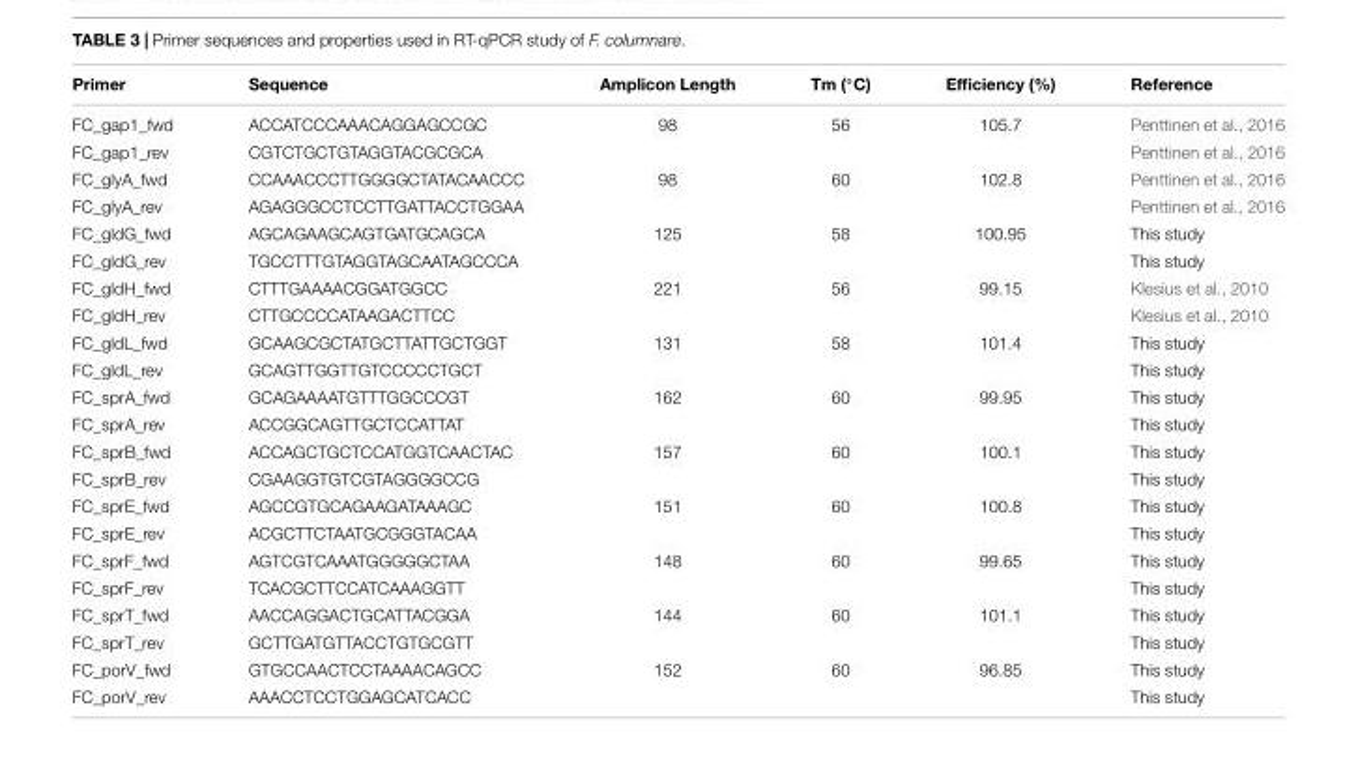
<table><thead><tr><td>Primer</td><td>Sequence</td><td>Amplicon Length</td><td>Tm (◦C)</td><td>Efficiency (%)</td><td>Reference</td></tr></thead><tbody><tr><td>FC_gap1_fwd</td><td>ACCATCCCAAACAGGAGCCGC</td><td>98</td><td>56</td><td>105.7</td><td>Penttinen et al., 2016</td></tr><tr><td>FC_gap1_rev</td><td>CGTCTGCTGTAGGTACGCGCA</td><td></td><td></td><td></td><td>Penttinen et al., 2016</td></tr><tr><td>FC_glyA_fwd</td><td>CCAAACCCTTGGGGCTATACAACCC</td><td>98</td><td>60</td><td>102.8</td><td>Penttinen et al., 2016</td></tr><tr><td>FC_glyA_rev</td><td>AGAGGGCCTCCTTGATTACCTGGAA</td><td></td><td></td><td></td><td>Penttinen et al., 2016</td></tr><tr><td>FC_gldG_fwd</td><td>AGCAGAAGCAGTGATGCAGCA</td><td>125</td><td>58</td><td>100.95</td><td>This study</td></tr><tr><td>FC_gldG_rev</td><td>TGCCTTTGTAGGTAGCAATAGCCCA</td><td></td><td></td><td></td><td>This study</td></tr><tr><td>FC_gldH_fwd</td><td>CTTTGAAAACGGATGGCC</td><td>221</td><td>56</td><td>99.15</td><td>Klesius et al., 2010</td></tr><tr><td>FC_gldH_rev</td><td>CTTGCCCCATAAGACTTCC</td><td></td><td></td><td></td><td>Klesius et al., 2010</td></tr><tr><td>FC_gldL_fwd</td><td>GCAAGCGCTATGCTTATTGCTGGT</td><td>131</td><td>58</td><td>101.4</td><td>This study</td></tr><tr><td>FC_gldL_rev</td><td>GCAGTTGGTTGTCCCCCTGCT</td><td></td><td></td><td></td><td>This study</td></tr><tr><td>FC_sprA_fwd</td><td>GCAGAAAATGTTTGGCCCGT</td><td>162</td><td>60</td><td>99.95</td><td>This study</td></tr><tr><td>FC_sprA_rev</td><td>ACCGGCAGTTGCTCCATTAT</td><td></td><td></td><td></td><td>This study</td></tr><tr><td>FC_sprB_fwd</td><td>ACCAGCTGCTCCATGGTCAACTAC</td><td>157</td><td>60</td><td>100.1</td><td>This study</td></tr><tr><td>FC_sprB_rev</td><td>CGAAGGTGTCGTAGGGGCCG</td><td></td><td></td><td></td><td>This study</td></tr><tr><td>FC_sprE_fwd</td><td>AGCCGTGCAGAAGATAAAGC</td><td>151</td><td>60</td><td>100.8</td><td>This study</td></tr><tr><td>FC_sprE_rev</td><td>ACGCTTCTAATGCGGGTACAA</td><td></td><td></td><td></td><td>This study</td></tr><tr><td>FC_sprF_fwd</td><td>AGTCGTCAAATGGGGGCTAA</td><td>148</td><td>60</td><td>99.65</td><td>This study</td></tr><tr><td>FC_sprF_rev</td><td>TCACGCTTCCATCAAAGGTT</td><td></td><td></td><td></td><td>This study</td></tr><tr><td>FC_sprT_fwd</td><td>AACCAGGACTGCATTACGGA</td><td>144</td><td>60</td><td>101.1</td><td>This study</td></tr><tr><td>FC_sprT_rev</td><td>GCTTGATGTTACCTGTGCGTT</td><td></td><td></td><td></td><td>This study</td></tr><tr><td>FC_porV_fwd</td><td>GTGCCAACTCCTAAAACAGCC</td><td>152</td><td>60</td><td>96.85</td><td>This study</td></tr><tr><td>FC_porV_rev</td><td>AAACCTCCTGGAGCATCACC</td><td></td><td></td><td></td><td>This study</td></tr></tbody></table>